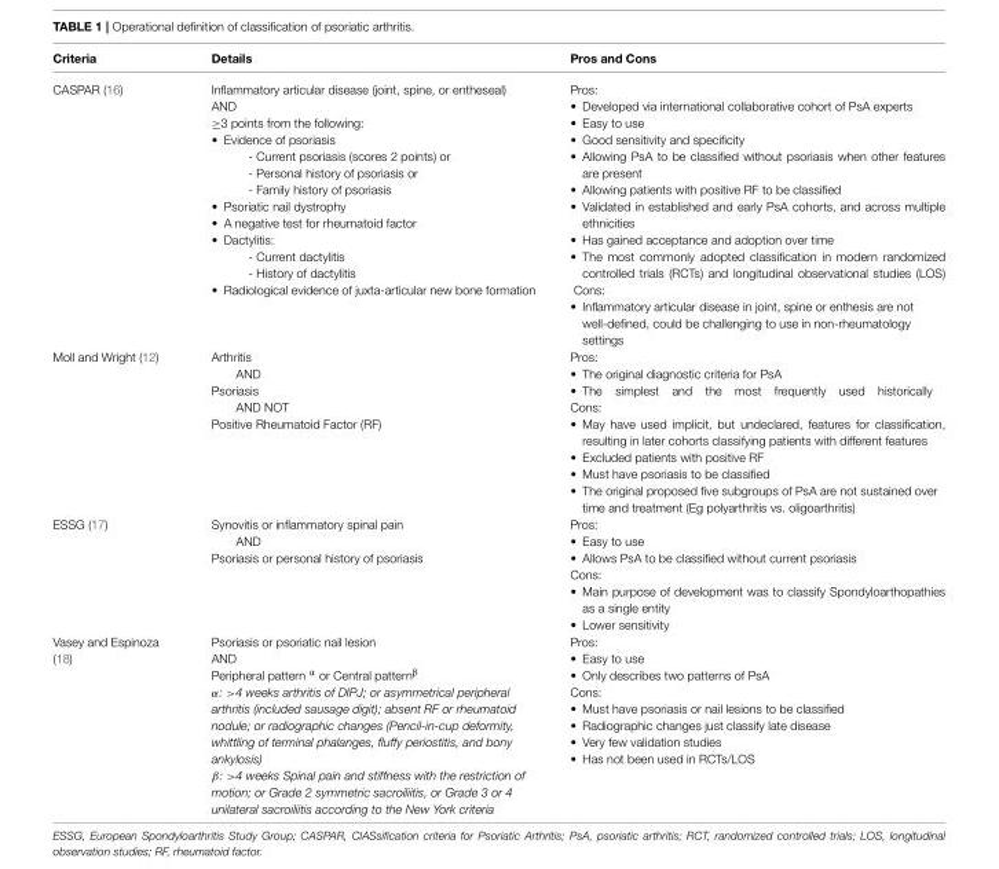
<table><thead><tr><td>Criteria</td><td>Details</td><td>Pros and Cons</td></tr></thead><tbody><tr><td>CASPAR (16)</td><td>Inflammatory articular disease (joint, spine, or entheseal) AND ≥3 points from the following: • Evidence of psoriasis - Current psoriasis (scores 2 points) or - Personal history of psoriasis or - Family history of psoriasis • Psoriatic nail dystrophy • A negative test for rheumatoid factor • Dactylitis: - Current dactylitis - History of dactylitis • Radiological evidence of juxta-articular new bone formation</td><td>Pros: • Developed via international collaborative cohort of PsA experts • Easy to use • Good sensitivity and specificity • Allowing PsA to be classified without psoriasis when other features are present • Allowing patients with positive RF to be classified • Validated in established and early PsA cohorts, and across multiple ethnicities • Has gained acceptance and adoption over time • The most commonly adopted classification in modern randomized controlled trials (RCTs) and longitudinal observational studies (LOS) Cons: • Inflammatory articular disease in joint, spine or enthesis are not well-defined, could be challenging to use in non-rheumatology settings</td></tr><tr><td>Moll and Wright (12)</td><td>Arthritis AND Psoriasis AND NOT Positive Rheumatoid Factor (RF)</td><td>Pros: • The original diagnostic criteria for PsA • The simplest and the most frequently used historically Cons: • May have used implicit, but undeclared, features for classification, resulting in later cohorts classifying patients with different features • Excluded patients with positive RF • Must have psoriasis to be classified • The original proposed five subgroups of PsA are not sustained over time and treatment (Eg polyarthritis vs. oligoarthritis)</td></tr><tr><td>ESSG (17)</td><td>Synovitis or inflammatory spinal pain AND Psoriasis or personal history of psoriasis</td><td>Pros: • Easy to use • Allows PsA to be classified without current psoriasis Cons: • Main purpose of development was to classify Spondyloarthopathies as a single entity • Lower sensitivity</td></tr><tr><td>Vasey and Espinoza (18)</td><td>Psoriasis or psoriatic nail lesion AND Peripheral pattern <sup>α</sup> or Central pattern<sup>β</sup> α: &gt;4 weeks arthritis of DIPJ; or asymmetrical peripheral arthritis (included sausage digit); absent RF or rheumatoid nodule; or radiographic changes (Pencil-in-cup deformity, whittling of terminal phalanges, fluffy periostitis, and bony ankylosis) β: &gt;4 weeks Spinal pain and stiffness with the restriction of motion; or Grade 2 symmetric sacroiliitis, or Grade 3 or 4 unilateral sacroiliitis according to the New York criteria</td><td>Pros: • Easy to use • Only describes two patterns of PsA Cons: • Must have psoriasis or nail lesions to be classified • Radiographic changes just classify late disease • Very few validation studies • Has not been used in RCTs/LOS</td></tr></tbody></table>